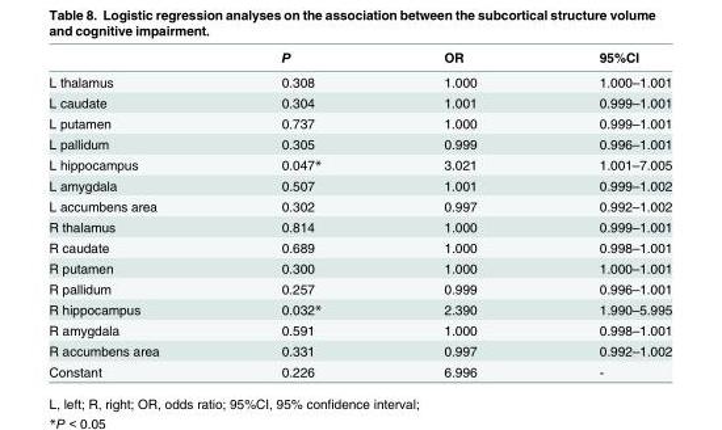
<table><thead><tr><td></td><td>P</td><td>OR</td><td>95%CI</td></tr></thead><tbody><tr><td>L thalamus</td><td>0.308</td><td>1.000</td><td>1.000–1.001</td></tr><tr><td>L caudate</td><td>0.304</td><td>1.001</td><td>0.999–1.001</td></tr><tr><td>L putamen</td><td>0.737</td><td>1.000</td><td>0.999–1.001</td></tr><tr><td>L pallidum</td><td>0.305</td><td>0.999</td><td>0.996–1.001</td></tr><tr><td>L hippocampus</td><td>0.047*</td><td>3.021</td><td>1.001–7.005</td></tr><tr><td>L amygdala</td><td>0.507</td><td>1.001</td><td>0.999–1.002</td></tr><tr><td>L accumbens area</td><td>0.302</td><td>0.997</td><td>0.992–1.002</td></tr><tr><td>R thalamus</td><td>0.814</td><td>1.000</td><td>0.999–1.001</td></tr><tr><td>R caudate</td><td>0.689</td><td>1.000</td><td>0.998–1.001</td></tr><tr><td>R putamen</td><td>0.300</td><td>1.000</td><td>1.000–1.001</td></tr><tr><td>R pallidum</td><td>0.257</td><td>0.999</td><td>0.996–1.001</td></tr><tr><td>R hippocampus</td><td>0.032*</td><td>2.390</td><td>1.990–5.995</td></tr><tr><td>R amygdala</td><td>0.591</td><td>1.000</td><td>0.998–1.001</td></tr><tr><td>R accumbens area</td><td>0.331</td><td>0.997</td><td>0.992–1.002</td></tr><tr><td>Constant</td><td>0.226</td><td>6.996</td><td>-</td></tr></tbody></table>